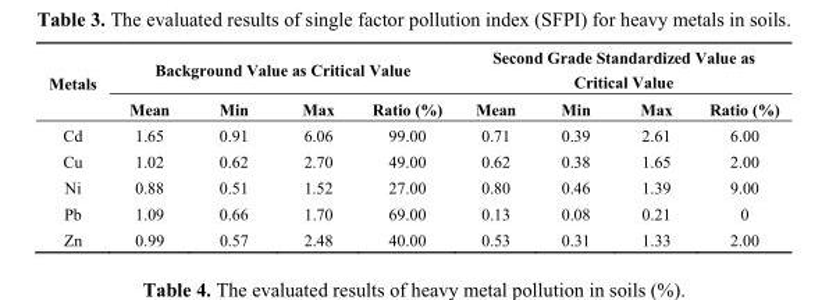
<table><thead><tr><td rowspan="2">Metals</td><td colspan="4">Background Value as Critical Value</td><td colspan="4">Second Grade Standardized Value as Critical Value</td></tr><tr><td>Mean</td><td>Min</td><td>Max</td><td>Ratio (%)</td><td>Mean</td><td>Min</td><td>Max</td><td>Ratio (%)</td></tr></thead><tbody><tr><td>Cd</td><td>1.65</td><td>0.91</td><td>6.06</td><td>99.00</td><td>0.71</td><td>0.39</td><td>2.61</td><td>6.00</td></tr><tr><td>Cu</td><td>1.02</td><td>0.62</td><td>2.70</td><td>49.00</td><td>0.62</td><td>0.38</td><td>1.65</td><td>2.00</td></tr><tr><td>Ni</td><td>0.88</td><td>0.51</td><td>1.52</td><td>27.00</td><td>0.80</td><td>0.46</td><td>1.39</td><td>9.00</td></tr><tr><td>Pb</td><td>1.09</td><td>0.66</td><td>1.70</td><td>69.00</td><td>0.13</td><td>0.08</td><td>0.21</td><td>0</td></tr><tr><td>Zn</td><td>0.99</td><td>0.57</td><td>2.48</td><td>40.00</td><td>0.53</td><td>0.31</td><td>1.33</td><td>2.00</td></tr></tbody></table>